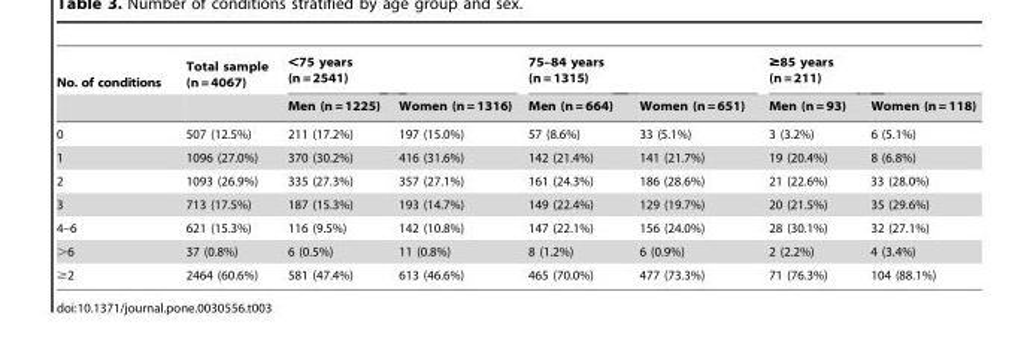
<table><thead><tr><td rowspan="2">No. of conditions</td><td rowspan="2">Total sample (n = 4067)</td><td rowspan="2">&lt;75 years (n = 2541) Men (n = 1225)</td><td rowspan="2">Women (n = 1316)</td><td rowspan="2">75–84 years (n = 1315) Men (n = 664)</td><td rowspan="2">Women (n = 651)</td><td rowspan="2">≥85 years (n = 211) Men (n = 93)</td><td rowspan="2">Women (n = 118)</td></tr><tr></tr></thead><tbody><tr><td>0</td><td>507 (12.5%)</td><td>211 (17.2%)</td><td>197 (15.0%)</td><td>57 (8.6%)</td><td>33 (5.1%)</td><td>3 (3.2%)</td><td>6 (5.1%)</td></tr><tr><td>1</td><td>1096 (27.0%)</td><td>370 (30.2%)</td><td>416 (31.6%)</td><td>142 (21.4%)</td><td>141 (21.7%)</td><td>19 (20.4%)</td><td>8 (6.8%)</td></tr><tr><td>2</td><td>1093 (26.9%)</td><td>335 (27.3%)</td><td>357 (27.1%)</td><td>161 (24.3%)</td><td>186 (28.6%)</td><td>21 (22.6%)</td><td>33 (28.0%)</td></tr><tr><td>3</td><td>713 (17.5%)</td><td>187 (15.3%)</td><td>193 (14.7%)</td><td>149 (22.4%)</td><td>129 (19.7%)</td><td>20 (21.5%)</td><td>35 (29.6%)</td></tr><tr><td>4–6</td><td>621 (15.3%)</td><td>116 (9.5%)</td><td>142 (10.8%)</td><td>147 (22.1%)</td><td>156 (24.0%)</td><td>28 (30.1%)</td><td>32 (27.1%)</td></tr><tr><td>&gt;6</td><td>37 (0.8%)</td><td>6 (0.5%)</td><td>11 (0.8%)</td><td>8 (1.2%)</td><td>6 (0.9%)</td><td>2 (2.2%)</td><td>4 (3.4%)</td></tr><tr><td>≥2</td><td>2464 (60.6%)</td><td>581 (47.4%)</td><td>613 (46.6%)</td><td>465 (70.0%)</td><td>477 (73.3%)</td><td>71 (76.3%)</td><td>104 (88.1%)</td></tr></tbody></table>